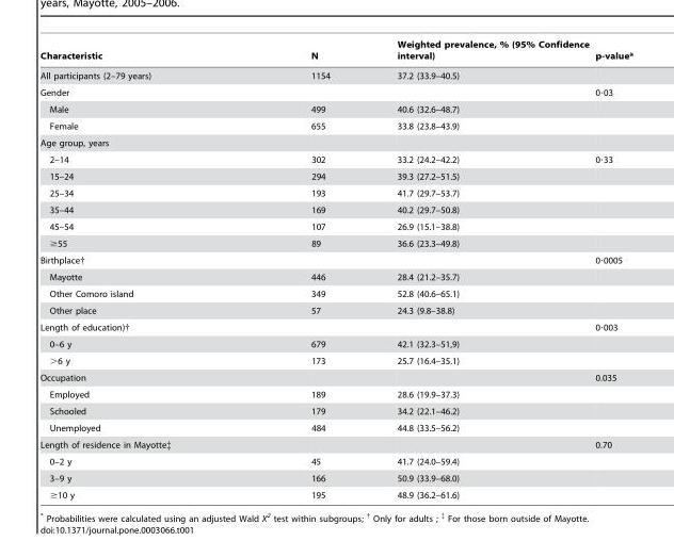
<table><thead><tr><td>Characteristic</td><td>N</td><td>Weighted prevalence, % (95% Confidence interval)</td><td>p-value*</td></tr></thead><tbody><tr><td>All participants (2–79 years)</td><td>1154</td><td>37.2 (33.9–40.5)</td><td></td></tr><tr><td>Gender</td><td></td><td></td><td>0·03</td></tr><tr><td>Male</td><td>499</td><td>40.6 (32.6–48.7)</td><td></td></tr><tr><td>Female</td><td>655</td><td>33.8 (23.8–43.9)</td><td></td></tr><tr><td colspan="4">Age group, years</td></tr><tr><td>2–14</td><td>302</td><td>33.2 (24.2–42.2)</td><td>0·33</td></tr><tr><td>15–24</td><td>294</td><td>39.3 (27.2–51.5)</td><td></td></tr><tr><td>25–34</td><td>193</td><td>41.7 (29.7–53.7)</td><td></td></tr><tr><td>35–44</td><td>169</td><td>40.2 (29.7–50.8)</td><td></td></tr><tr><td>45–54</td><td>107</td><td>26.9 (15.1–38.8)</td><td></td></tr><tr><td>≥55</td><td>89</td><td>36.6 (23.3–49.8)</td><td></td></tr><tr><td>Birthplace†</td><td></td><td></td><td>0·0005</td></tr><tr><td>Mayotte</td><td>446</td><td>28.4 (21.2–35.7)</td><td></td></tr><tr><td>Other Comoro island</td><td>349</td><td>52.8 (40.6–65.1)</td><td></td></tr><tr><td>Other place</td><td>57</td><td>24.3 (9.8–38.8)</td><td></td></tr><tr><td>Length of education)†</td><td></td><td></td><td>0·003</td></tr><tr><td>0–6 y</td><td>679</td><td>42.1 (32.3–51,9)</td><td></td></tr><tr><td>&gt;6 y</td><td>173</td><td>25.7 (16.4–35.1)</td><td></td></tr><tr><td>Occupation</td><td></td><td></td><td>0.035</td></tr><tr><td>Employed</td><td>189</td><td>28.6 (19.9–37.3)</td><td></td></tr><tr><td>Schooled</td><td>179</td><td>34.2 (22.1–46.2)</td><td></td></tr><tr><td>Unemployed</td><td>484</td><td>44.8 (33.5–56.2)</td><td></td></tr><tr><td>Length of residence in Mayotte‡</td><td></td><td></td><td>0.70</td></tr><tr><td>0–2 y</td><td>45</td><td>41.7 (24.0–59.4)</td><td></td></tr><tr><td>3–9 y</td><td>166</td><td>50.9 (33.9–68.0)</td><td></td></tr><tr><td>≥10 y</td><td>195</td><td>48.9 (36.2–61.6)</td><td></td></tr></tbody></table>